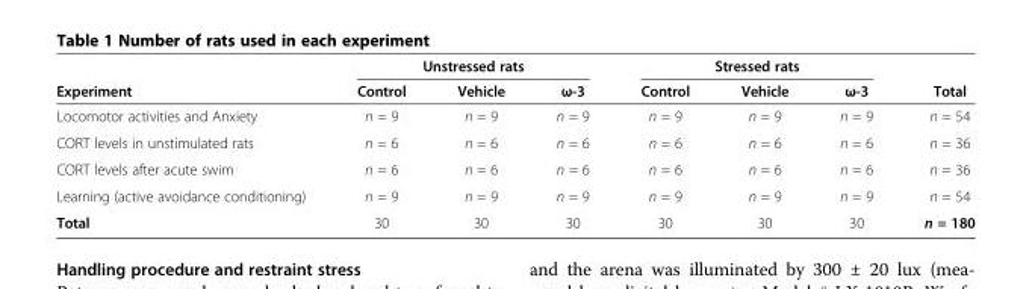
<table><thead><tr><td rowspan="2">Experiment</td><td colspan="3">Unstressed rats</td><td colspan="3">Stressed rats</td><td rowspan="2">Total</td></tr><tr><td>Control</td><td>Vehicle</td><td>ω-3</td><td>Control</td><td>Vehicle</td><td>ω-3</td></tr></thead><tbody><tr><td>Locomotor activities and Anxiety</td><td>n = 9</td><td>n = 9</td><td>n = 9</td><td>n = 9</td><td>n = 9</td><td>n = 9</td><td>n = 54</td></tr><tr><td>CORT levels in unstimulated rats</td><td>n = 6</td><td>n = 6</td><td>n = 6</td><td>n = 6</td><td>n = 6</td><td>n = 6</td><td>n = 36</td></tr><tr><td>CORT levels after acute swim</td><td>n = 6</td><td>n = 6</td><td>n = 6</td><td>n = 6</td><td>n = 6</td><td>n = 6</td><td>n = 36</td></tr><tr><td>Learning (active avoidance conditioning)</td><td>n = 9</td><td>n = 9</td><td>n = 9</td><td>n = 9</td><td>n = 9</td><td>n = 9</td><td>n = 54</td></tr><tr><td>Total</td><td>30</td><td>30</td><td>30</td><td>30</td><td>30</td><td>30</td><td>n = 180</td></tr></tbody></table>